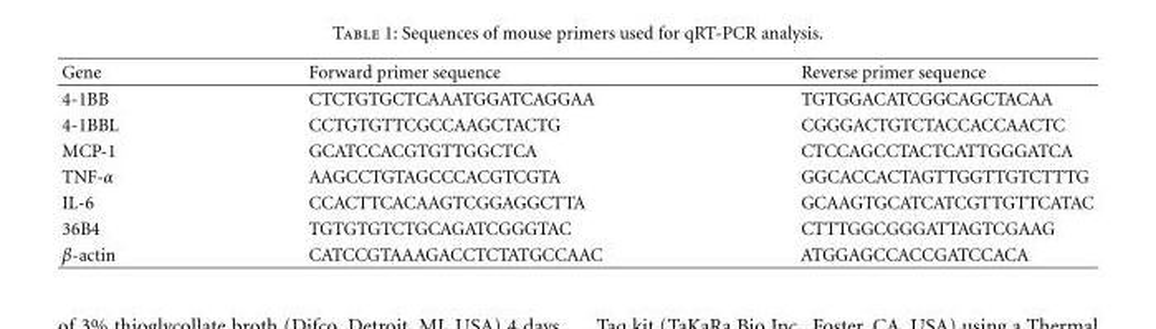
<table><thead><tr><td>Gene</td><td>Forward primer sequence</td><td>Reverse primer sequence</td></tr></thead><tbody><tr><td>4-1BB</td><td>CTCTGTGCTCAAATGGATCAGGAA</td><td>TGTGGACATCGGCAGCTACAA</td></tr><tr><td>4-1BBL</td><td>CCTGTGTTCGCCAAGCTACTG</td><td>CGGGACTGTCTACCACCAACTC</td></tr><tr><td>MCP-1</td><td>GCATCCACGTGTTGGCTCA</td><td>CTCCAGCCTACTCATTGGGATCA</td></tr><tr><td>TNF-α</td><td>AAGCCTGTAGCCCACGTCGTA</td><td>GGCACCACTAGTTGGTTGTCTTTG</td></tr><tr><td>IL-6</td><td>CCACTTCACAAGTCGGAGGCTTA</td><td>GCAAGTGCATCATCGTTGTTCATAC</td></tr><tr><td>36B4</td><td>TGTGTGTCTGCAGATCGGGTAC</td><td>CTTTGGCGGGATTAGTCGAAG</td></tr><tr><td>β-actin</td><td>CATCCGTAAAGACCTCTATGCCAAC</td><td>ATGGAGCCACCGATCCACA</td></tr></tbody></table>